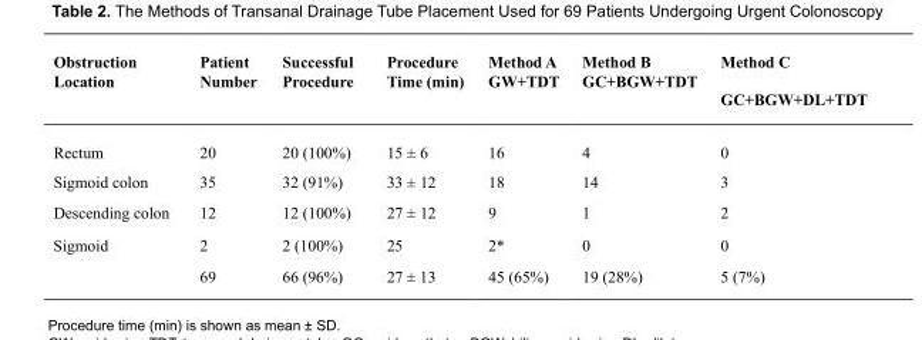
<table><thead><tr><td>Obstruction Location</td><td>Patient Number</td><td>Successful Procedure</td><td>Procedure Time (min)</td><td>Method A GW+TDT</td><td>Method B GC+BGW+TDT</td><td>Method C GC+BGW+DL+TDT</td></tr></thead><tbody><tr><td>Rectum</td><td>20</td><td>20 (100%)</td><td>15 ± 6</td><td>16</td><td>4</td><td>0</td></tr><tr><td>Sigmoid colon</td><td>35</td><td>32 (91%)</td><td>33 ± 12</td><td>18</td><td>14</td><td>3</td></tr><tr><td>Descending colon</td><td>12</td><td>12 (100%)</td><td>27 ± 12</td><td>9</td><td>1</td><td>2</td></tr><tr><td rowspan="2">Sigmoid</td><td>2</td><td>2 (100%)</td><td>25</td><td>2*</td><td>0</td><td>0</td></tr><tr><td>69</td><td>66 (96%)</td><td>27 ± 13</td><td>45 (65%)</td><td>19 (28%)</td><td>5 (7%)</td></tr></tbody></table>